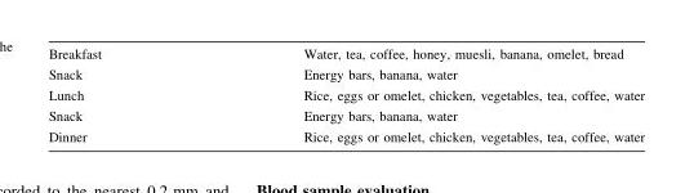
<table><tbody><tr><td>Breakfast</td><td>Water, tea, coffee, honey, muesli, banana, omelet, bread</td></tr><tr><td>Snack</td><td>Energy bars, banana, water</td></tr><tr><td>Lunch</td><td>Rice, eggs or omelet, chicken, vegetables, tea, coffee, water</td></tr><tr><td>Snack</td><td>Energy bars, banana, water</td></tr><tr><td>Dinner</td><td>Rice, eggs or omelet, chicken, vegetables, tea, coffee, water</td></tr></tbody></table>